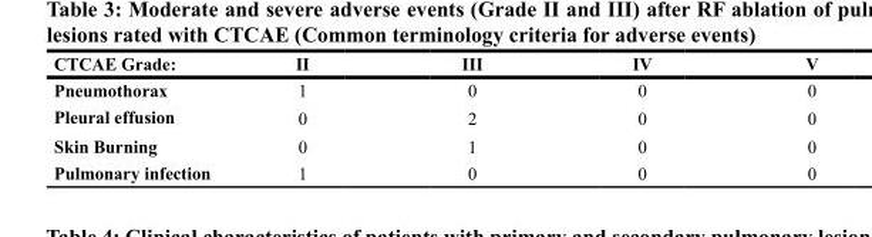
<table><thead><tr><td>CTCAE Grade:</td><td>II</td><td>III</td><td>IV</td><td>V</td></tr></thead><tbody><tr><td>Pneumothorax</td><td>1</td><td>0</td><td>0</td><td>0</td></tr><tr><td>Pleural effusion</td><td>0</td><td>2</td><td>0</td><td>0</td></tr><tr><td>Skin Burning</td><td>0</td><td>1</td><td>0</td><td>0</td></tr><tr><td>Pulmonary infection</td><td>1</td><td>0</td><td>0</td><td>0</td></tr></tbody></table>